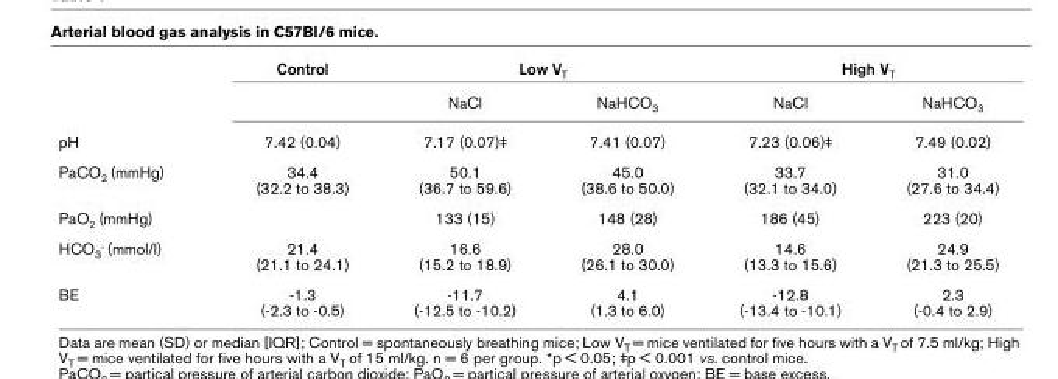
<table><thead><tr><td rowspan="2"></td><td rowspan="2">Control</td><td colspan="2">Low V<sub>T</sub></td><td colspan="2">High V<sub>T</sub></td></tr><tr><td>NaCl</td><td>NaHCO<sub>3</sub></td><td>NaCl</td><td>NaHCO<sub>3</sub></td></tr></thead><tbody><tr><td>pH</td><td>7.42 (0.04)</td><td>7.17 (0.07)‡</td><td>7.41 (0.07)</td><td>7.23 (0.06)‡</td><td>7.49 (0.02)</td></tr><tr><td>PaCO<sub>2</sub> (mmHg)</td><td>34.4 (32.2 to 38.3)</td><td>50.1 (36.7 to 59.6)</td><td>45.0 (38.6 to 50.0)</td><td>33.7 (32.1 to 34.0)</td><td>31.0 (27.6 to 34.4)</td></tr><tr><td>PaO<sub>2</sub> (mmHg)</td><td></td><td>133 (15)</td><td>148 (28)</td><td>186 (45)</td><td>223 (20)</td></tr><tr><td>HCO<sub>3</sub><sup>-</sup> (mmol/l)</td><td>21.4 (21.1 to 24.1)</td><td>16.6 (15.2 to 18.9)</td><td>28.0 (26.1 to 30.0)</td><td>14.6 (13.3 to 15.6)</td><td>24.9 (21.3 to 25.5)</td></tr><tr><td>BE</td><td>-1.3 (-2.3 to -0.5)</td><td>-11.7 (-12.5 to -10.2)</td><td>4.1 (1.3 to 6.0)</td><td>-12.8 (-13.4 to -10.1)</td><td>2.3 (-0.4 to 2.9)</td></tr></tbody></table>